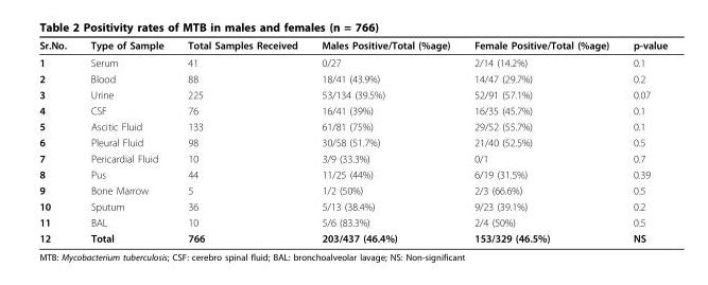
<table><thead><tr><td>Sr.No.</td><td>Type of Sample</td><td>Total Samples Received</td><td>Males Positive/Total (%age)</td><td>Female Positive/Total (%age)</td><td>p-value</td></tr></thead><tbody><tr><td>1</td><td>Serum</td><td>41</td><td>0/27</td><td>2/14 (14.2%)</td><td>0.1</td></tr><tr><td>2</td><td>Blood</td><td>88</td><td>18/41 (43.9%)</td><td>14/47 (29.7%)</td><td>0.2</td></tr><tr><td>3</td><td>Urine</td><td>225</td><td>53/134 (39.5%)</td><td>52/91 (57.1%)</td><td>0.07</td></tr><tr><td>4</td><td>CSF</td><td>76</td><td>16/41 (39%)</td><td>16/35 (45.7%)</td><td>0.1</td></tr><tr><td>5</td><td>Ascitic Fluid</td><td>133</td><td>61/81 (75%)</td><td>29/52 (55.7%)</td><td>0.1</td></tr><tr><td>6</td><td>Pleural Fluid</td><td>98</td><td>30/58 (51.7%)</td><td>21/40 (52.5%)</td><td>0.5</td></tr><tr><td>7</td><td>Pericardial Fluid</td><td>10</td><td>3/9 (33.3%)</td><td>0/1</td><td>0.7</td></tr><tr><td>8</td><td>Pus</td><td>44</td><td>11/25 (44%)</td><td>6/19 (31.5%)</td><td>0.39</td></tr><tr><td>9</td><td>Bone Marrow</td><td>5</td><td>1/2 (50%)</td><td>2/3 (66.6%)</td><td>0.5</td></tr><tr><td>10</td><td>Sputum</td><td>36</td><td>5/13 (38.4%)</td><td>9/23 (39.1%)</td><td>0.2</td></tr><tr><td>11</td><td>BAL</td><td>10</td><td>5/6 (83.3%)</td><td>2/4 (50%)</td><td>0.5</td></tr><tr><td>12</td><td>Total</td><td>766</td><td>203/437 (46.4%)</td><td>153/329 (46.5%)</td><td>NS</td></tr></tbody></table>